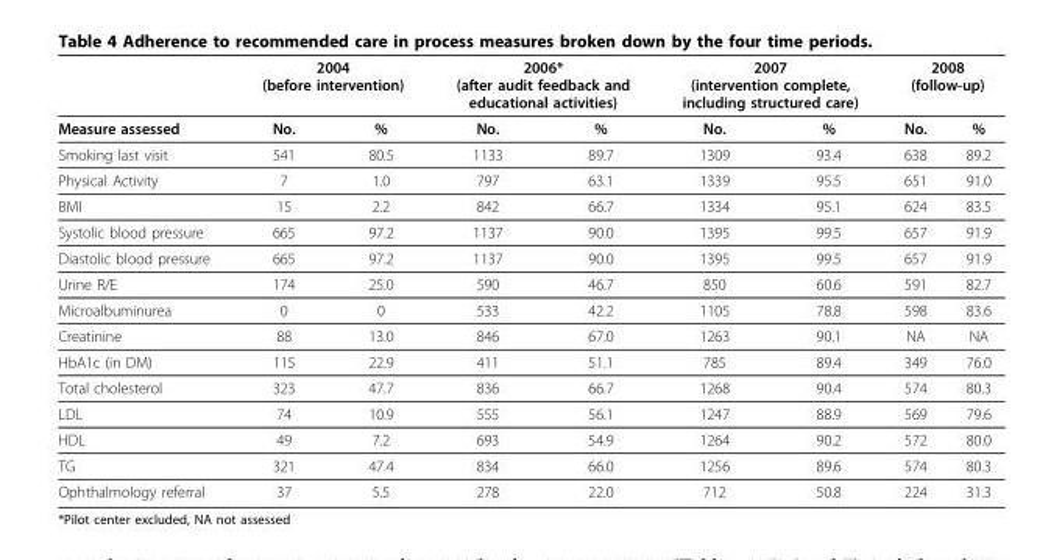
<table><thead><tr><td rowspan="2">Measure assessed</td><td colspan="2">2004 (before intervention)</td><td colspan="2">2006* (after audit feedback and educational activities)</td><td colspan="2">2007 (intervention complete, including structured care)</td><td colspan="2">2008 (follow-up)</td></tr><tr><td>No.</td><td>%</td><td>No.</td><td>%</td><td>No.</td><td>%</td><td>No.</td><td>%</td></tr></thead><tbody><tr><td>Smoking last visit</td><td>541</td><td>80.5</td><td>1133</td><td>89.7</td><td>1309</td><td>93.4</td><td>638</td><td>89.2</td></tr><tr><td>Physical Activity</td><td>7</td><td>1.0</td><td>797</td><td>63.1</td><td>1339</td><td>95.5</td><td>651</td><td>91.0</td></tr><tr><td>BMI</td><td>15</td><td>2.2</td><td>842</td><td>66.7</td><td>1334</td><td>95.1</td><td>624</td><td>83.5</td></tr><tr><td>Systolic blood pressure</td><td>665</td><td>97.2</td><td>1137</td><td>90.0</td><td>1395</td><td>99.5</td><td>657</td><td>91.9</td></tr><tr><td>Diastolic blood pressure</td><td>665</td><td>97.2</td><td>1137</td><td>90.0</td><td>1395</td><td>99.5</td><td>657</td><td>91.9</td></tr><tr><td>Urine R/E</td><td>174</td><td>25.0</td><td>590</td><td>46.7</td><td>850</td><td>60.6</td><td>591</td><td>82.7</td></tr><tr><td>Microalbuminurea</td><td>0</td><td>0</td><td>533</td><td>42.2</td><td>1105</td><td>78.8</td><td>598</td><td>83.6</td></tr><tr><td>Creatinine</td><td>88</td><td>13.0</td><td>846</td><td>67.0</td><td>1263</td><td>90.1</td><td>NA</td><td>NA</td></tr><tr><td>HbA1c (in DM)</td><td>115</td><td>22.9</td><td>411</td><td>51.1</td><td>785</td><td>89.4</td><td>349</td><td>76.0</td></tr><tr><td>Total cholesterol</td><td>323</td><td>47.7</td><td>836</td><td>66.7</td><td>1268</td><td>90.4</td><td>574</td><td>80.3</td></tr><tr><td>LDL</td><td>74</td><td>10.9</td><td>555</td><td>56.1</td><td>1247</td><td>88.9</td><td>569</td><td>79.6</td></tr><tr><td>HDL</td><td>49</td><td>7.2</td><td>693</td><td>54.9</td><td>1264</td><td>90.2</td><td>572</td><td>80.0</td></tr><tr><td>TG</td><td>321</td><td>47.4</td><td>834</td><td>66.0</td><td>1256</td><td>89.6</td><td>574</td><td>80.3</td></tr><tr><td>Ophthalmology referral</td><td>37</td><td>5.5</td><td>278</td><td>22.0</td><td>712</td><td>50.8</td><td>224</td><td>31.3</td></tr></tbody></table>